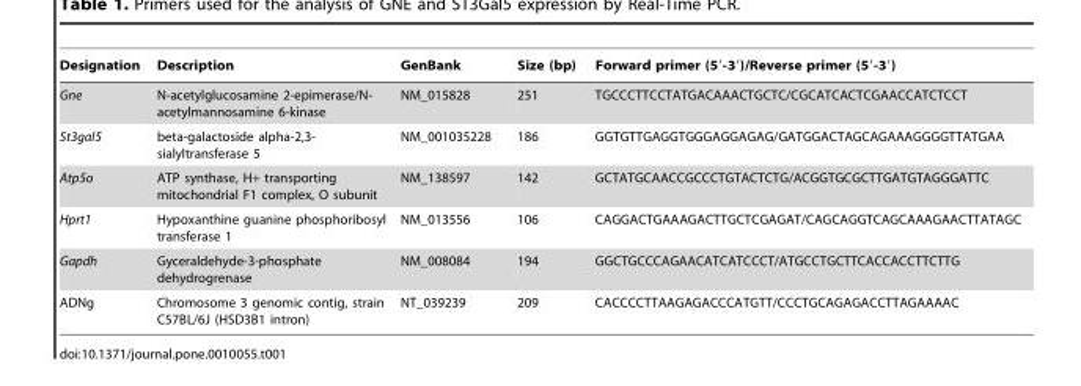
<table><thead><tr><td>Designation</td><td>Description</td><td>GenBank</td><td>Size (bp)</td><td>Forward primer (5′-3′)/Reverse primer (5′-3′)</td></tr></thead><tbody><tr><td>Gne</td><td>N-acetylglucosamine 2-epimerase/N- acetylmannosamine 6-kinase</td><td>NM_015828</td><td>251</td><td>TGCCCTTCCTATGACAAACTGCTC/CGCATCACTCGAACCATCTCCT</td></tr><tr><td>St3gal5</td><td>beta-galactoside alpha-2,3- sialyltransferase 5</td><td>NM_001035228</td><td>186</td><td>GGTGTTGAGGTGGGAGGAGAG/GATGGACTAGCAGAAAGGGGTTATGAA</td></tr><tr><td>Atp5o</td><td>ATP synthase, H+ transporting mitochondrial F1 complex, O subunit</td><td>NM_138597</td><td>142</td><td>GCTATGCAACCGCCCTGTACTCTG/ACGGTGCGCTTGATGTAGGGATTC</td></tr><tr><td>Hprt1</td><td>Hypoxanthine guanine phosphoribosyl transferase 1</td><td>NM_013556</td><td>106</td><td>CAGGACTGAAAGACTTGCTCGAGAT/CAGCAGGTCAGCAAAGAACTTATAGC</td></tr><tr><td>Gapdh</td><td>Gyceraldehyde-3-phosphate dehydrogrenase</td><td>NM_008084</td><td>194</td><td>GGCTGCCCAGAACATCATCCCT/ATGCCTGCTTCACCACCTTCTTG</td></tr><tr><td>ADNg</td><td>Chromosome 3 genomic contig, strain C57BL/6J (HSD3B1 intron)</td><td>NT_039239</td><td>209</td><td>CACCCCTTAAGAGACCCATGTT/CCCTGCAGAGACCTTAGAAAAC</td></tr></tbody></table>